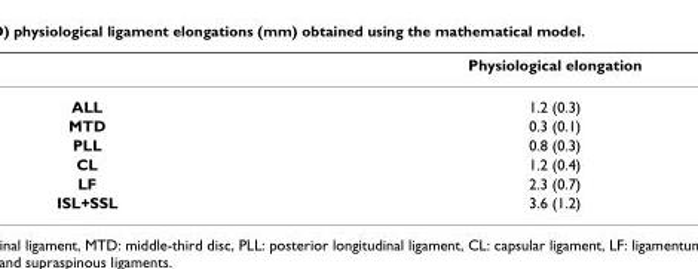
<table><thead><tr><td></td><td>Physiological elongation</td></tr></thead><tbody><tr><td>ALL</td><td>1.2 (0.3)</td></tr><tr><td>MTD</td><td>0.3 (0.1)</td></tr><tr><td>PLL</td><td>0.8 (0.3)</td></tr><tr><td>CL</td><td>1.2 (0.4)</td></tr><tr><td>LF</td><td>2.3 (0.7)</td></tr><tr><td>ISL+SSL</td><td>3.6 (1.2)</td></tr></tbody></table>